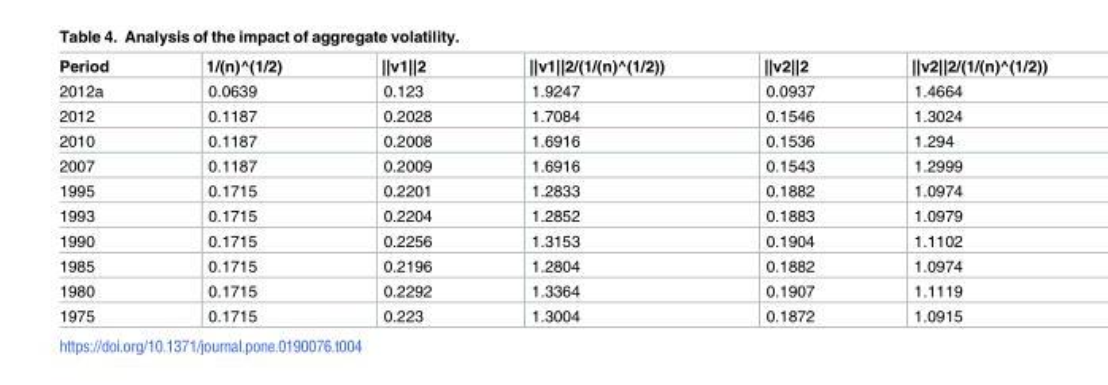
<table><thead><tr><td>Period</td><td>1/(n)^(1/2)</td><td>||v1||2</td><td>||v1||2/(1/(n)^(1/2))</td><td>||v2||2</td><td>||v2||2/(1/(n)^(1/2))</td></tr></thead><tbody><tr><td>2012a</td><td>0.0639</td><td>0.123</td><td>1.9247</td><td>0.0937</td><td>1.4664</td></tr><tr><td>2012</td><td>0.1187</td><td>0.2028</td><td>1.7084</td><td>0.1546</td><td>1.3024</td></tr><tr><td>2010</td><td>0.1187</td><td>0.2008</td><td>1.6916</td><td>0.1536</td><td>1.294</td></tr><tr><td>2007</td><td>0.1187</td><td>0.2009</td><td>1.6916</td><td>0.1543</td><td>1.2999</td></tr><tr><td>1995</td><td>0.1715</td><td>0.2201</td><td>1.2833</td><td>0.1882</td><td>1.0974</td></tr><tr><td>1993</td><td>0.1715</td><td>0.2204</td><td>1.2852</td><td>0.1883</td><td>1.0979</td></tr><tr><td>1990</td><td>0.1715</td><td>0.2256</td><td>1.3153</td><td>0.1904</td><td>1.1102</td></tr><tr><td>1985</td><td>0.1715</td><td>0.2196</td><td>1.2804</td><td>0.1882</td><td>1.0974</td></tr><tr><td>1980</td><td>0.1715</td><td>0.2292</td><td>1.3364</td><td>0.1907</td><td>1.1119</td></tr><tr><td>1975</td><td>0.1715</td><td>0.223</td><td>1.3004</td><td>0.1872</td><td>1.0915</td></tr></tbody></table>